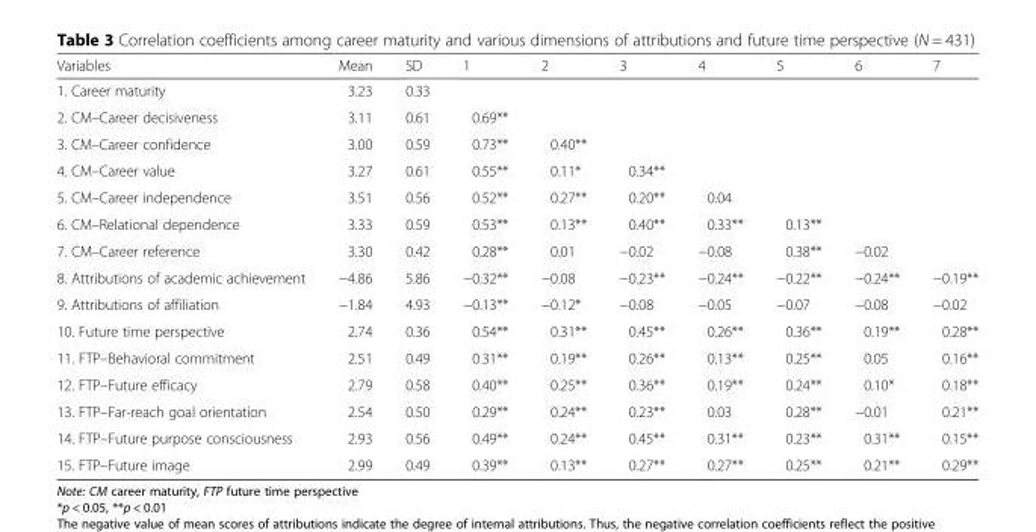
<table><thead><tr><td>Variables</td><td>Mean</td><td>SD</td><td>1</td><td>2</td><td>3</td><td>4</td><td>5</td><td>6</td><td>7</td></tr></thead><tbody><tr><td>1. Career maturity</td><td>3.23</td><td>0.33</td><td></td><td></td><td></td><td></td><td></td><td></td><td></td></tr><tr><td>2. CM–Career decisiveness</td><td>3.11</td><td>0.61</td><td>0.69**</td><td></td><td></td><td></td><td></td><td></td><td></td></tr><tr><td>3. CM–Career confidence</td><td>3.00</td><td>0.59</td><td>0.73**</td><td>0.40**</td><td></td><td></td><td></td><td></td><td></td></tr><tr><td>4. CM–Career value</td><td>3.27</td><td>0.61</td><td>0.55**</td><td>0.11*</td><td>0.34**</td><td></td><td></td><td></td><td></td></tr><tr><td>5. CM–Career independence</td><td>3.51</td><td>0.56</td><td>0.52**</td><td>0.27**</td><td>0.20**</td><td>0.04</td><td></td><td></td><td></td></tr><tr><td>6. CM–Relational dependence</td><td>3.33</td><td>0.59</td><td>0.53**</td><td>0.13**</td><td>0.40**</td><td>0.33**</td><td>0.13**</td><td></td><td></td></tr><tr><td>7. CM–Career reference</td><td>3.30</td><td>0.42</td><td>0.28**</td><td>0.01</td><td>−0.02</td><td>−0.08</td><td>0.38**</td><td>−0.02</td><td></td></tr><tr><td>8. Attributions of academic achievement</td><td>−4.86</td><td>5.86</td><td>−0.32**</td><td>−0.08</td><td>−0.23**</td><td>−0.24**</td><td>−0.22**</td><td>−0.24**</td><td>−0.19**</td></tr><tr><td>9. Attributions of affiliation</td><td>−1.84</td><td>4.93</td><td>−0.13**</td><td>−0.12*</td><td>−0.08</td><td>−0.05</td><td>−0.07</td><td>−0.08</td><td>−0.02</td></tr><tr><td>10. Future time perspective</td><td>2.74</td><td>0.36</td><td>0.54**</td><td>0.31**</td><td>0.45**</td><td>0.26**</td><td>0.36**</td><td>0.19**</td><td>0.28**</td></tr><tr><td>11. FTP–Behavioral commitment</td><td>2.51</td><td>0.49</td><td>0.31**</td><td>0.19**</td><td>0.26**</td><td>0.13**</td><td>0.25**</td><td>0.05</td><td>0.16**</td></tr><tr><td>12. FTP–Future efficacy</td><td>2.79</td><td>0.58</td><td>0.40**</td><td>0.25**</td><td>0.36**</td><td>0.19**</td><td>0.24**</td><td>0.10*</td><td>0.18**</td></tr><tr><td>13. FTP–Far-reach goal orientation</td><td>2.54</td><td>0.50</td><td>0.29**</td><td>0.24**</td><td>0.23**</td><td>0.03</td><td>0.28**</td><td>−0.01</td><td>0.21**</td></tr><tr><td>14. FTP–Future purpose consciousness</td><td>2.93</td><td>0.56</td><td>0.49**</td><td>0.24**</td><td>0.45**</td><td>0.31**</td><td>0.23**</td><td>0.31**</td><td>0.15**</td></tr><tr><td>15. FTP–Future image</td><td>2.99</td><td>0.49</td><td>0.39**</td><td>0.13**</td><td>0.27**</td><td>0.27**</td><td>0.25**</td><td>0.21**</td><td>0.29**</td></tr></tbody></table>